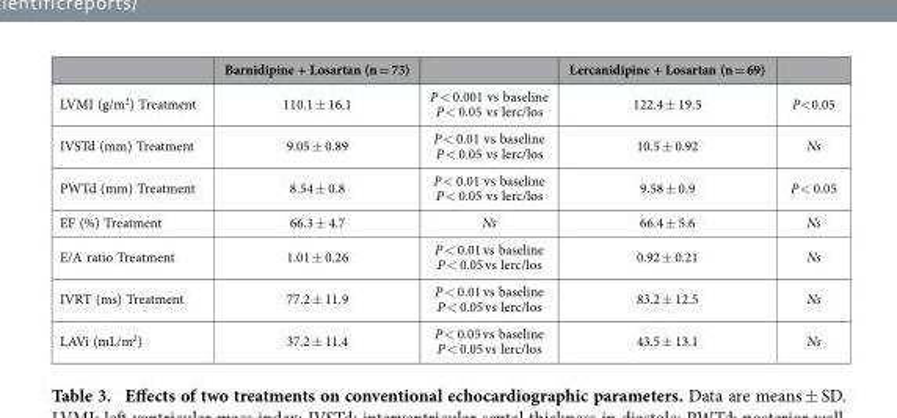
<table><thead><tr><td></td><td>Barnidipine + Losartan (n = 73)</td><td></td><td>Lercanidipine + Losartan (n = 69)</td><td></td></tr></thead><tbody><tr><td>LVMI (g/m<sup>2</sup>) Treatment</td><td>110.1 ± 16.1</td><td>P &lt; 0.001 vs baseline P &lt; 0.05 vs lerc/los</td><td>122.4 ± 19.5</td><td>P&lt; 0.05</td></tr><tr><td>IVSTd (mm) Treatment</td><td>9.05 ± 0.89</td><td>P &lt; 0.01 vs baseline P &lt; 0.05 vs lerc/los</td><td>10.5 ± 0.92</td><td>Ns</td></tr><tr><td>PWTd (mm) Treatment</td><td>8.54 ± 0.8</td><td>P &lt; 0.01 vs baseline P &lt; 0.05 vs lerc/los</td><td>9.58 ± 0.9</td><td>P &lt; 0.05</td></tr><tr><td>EF (%) Treatment</td><td>66.3 ± 4.7</td><td>Ns</td><td>66.4 ± 5.6</td><td>Ns</td></tr><tr><td>E/A ratio Treatment</td><td>1.01 ± 0.26</td><td>P &lt; 0.01 vs baseline P &lt; 0.05 vs lerc/los</td><td>0.92 ± 0.21</td><td>Ns</td></tr><tr><td>IVRT (ms) Treatment</td><td>77.2 ± 11.9</td><td>P &lt; 0.01 vs baseline P &lt; 0.05 vs lerc/los</td><td>83.2 ± 12.5</td><td>Ns</td></tr><tr><td>LAVi (mL/m<sup>2</sup>)</td><td>37.2 ± 11.4</td><td>P &lt; 0.05 vs baseline P &lt; 0.05 vs lerc/los</td><td>43.5 ± 13.1</td><td>Ns</td></tr></tbody></table>